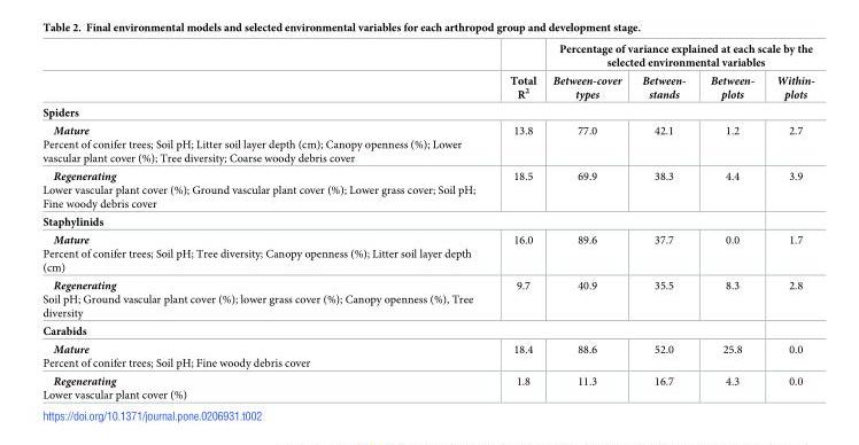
<table><thead><tr><td rowspan="2"></td><td rowspan="2">Total R<sup>2</sup></td><td colspan="4">Percentage of variance explained at each scale by the selected environmental variables</td></tr><tr><td>Between-cover types</td><td>Between- stands</td><td>Between- plots</td><td>Within- plots</td></tr></thead><tbody><tr><td colspan="6">Spiders</td></tr><tr><td>Mature Percent of conifer trees; Soil pH; Litter soil layer depth (cm); Canopy openness (%); Lower vascular plant cover (%); Tree diversity; Coarse woody debris cover</td><td>13.8</td><td>77.0</td><td>42.1</td><td>1.2</td><td>2.7</td></tr><tr><td>Regenerating Lower vascular plant cover (%); Ground vascular plant cover (%); Lower grass cover; Soil pH; Fine woody debris cover</td><td>18.5</td><td>69.9</td><td>38.3</td><td>4.4</td><td>3.9</td></tr><tr><td colspan="6">Staphylinids</td></tr><tr><td>Mature Percent of conifer trees; Soil pH; Tree diversity; Canopy openness (%); Litter soil layer depth (cm)</td><td>16.0</td><td>89.6</td><td>37.7</td><td>0.0</td><td>1.7</td></tr><tr><td>Regenerating Soil pH; Ground vascular plant cover (%); lower grass cover (%); Canopy openness (%), Tree diversity</td><td>9.7</td><td>40.9</td><td>35.5</td><td>8.3</td><td>2.8</td></tr><tr><td colspan="6">Carabids</td></tr><tr><td>Mature Percent of conifer trees; Soil pH; Fine woody debris cover</td><td>18.4</td><td>88.6</td><td>52.0</td><td>25.8</td><td>0.0</td></tr><tr><td>Regenerating Lower vascular plant cover (%)</td><td>1.8</td><td>11.3</td><td>16.7</td><td>4.3</td><td>0.0</td></tr></tbody></table>